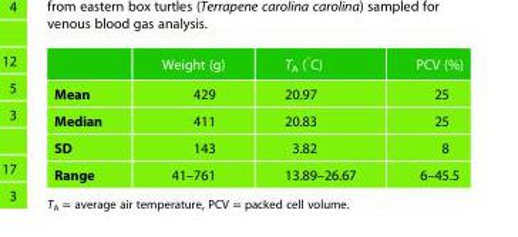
<table><thead><tr><td></td><td>Weight (g)</td><td>T<sub>A</sub> (<sup>°</sup>C)</td><td>PCV (%)</td></tr></thead><tbody><tr><td>Mean</td><td>429</td><td>20.97</td><td>25</td></tr><tr><td>Median</td><td>411</td><td>20.83</td><td>25</td></tr><tr><td>SD</td><td>143</td><td>3.82</td><td>8</td></tr><tr><td>Range</td><td>41–761</td><td>13.89–26.67</td><td>6–45.5</td></tr></tbody></table>